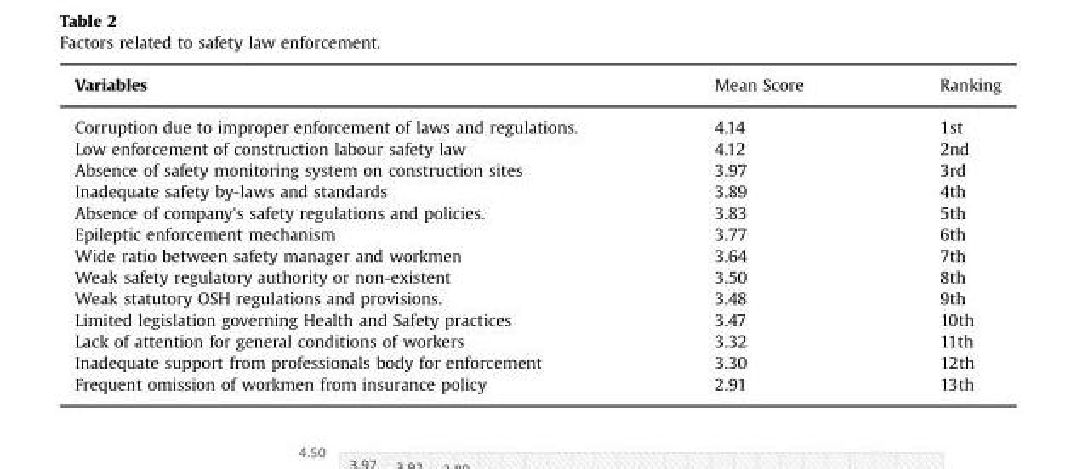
<table><thead><tr><td>Variables</td><td>Mean Score</td><td>Ranking</td></tr></thead><tbody><tr><td>Corruption due to improper enforcement of laws and regulations.</td><td>4.14</td><td>1st</td></tr><tr><td>Low enforcement of construction labour safety law</td><td>4.12</td><td>2nd</td></tr><tr><td>Absence of safety monitoring system on construction sites</td><td>3.97</td><td>3rd</td></tr><tr><td>Inadequate safety by-laws and standards</td><td>3.89</td><td>4th</td></tr><tr><td>Absence of company&#x27;s safety regulations and policies.</td><td>3.83</td><td>5th</td></tr><tr><td>Epileptic enforcement mechanism</td><td>3.77</td><td>6th</td></tr><tr><td>Wide ratio between safety manager and workmen</td><td>3.64</td><td>7th</td></tr><tr><td>Weak safety regulatory authority or non-existent</td><td>3.50</td><td>8th</td></tr><tr><td>Weak statutory OSH regulations and provisions.</td><td>3.48</td><td>9th</td></tr><tr><td>Limited legislation governing Health and Safety practices</td><td>3.47</td><td>10th</td></tr><tr><td>Lack of attention for general conditions of workers</td><td>3.32</td><td>11th</td></tr><tr><td>Inadequate support from professionals body for enforcement</td><td>3.30</td><td>12th</td></tr><tr><td>Frequent omission of workmen from insurance policy</td><td>2.91</td><td>13th</td></tr></tbody></table>